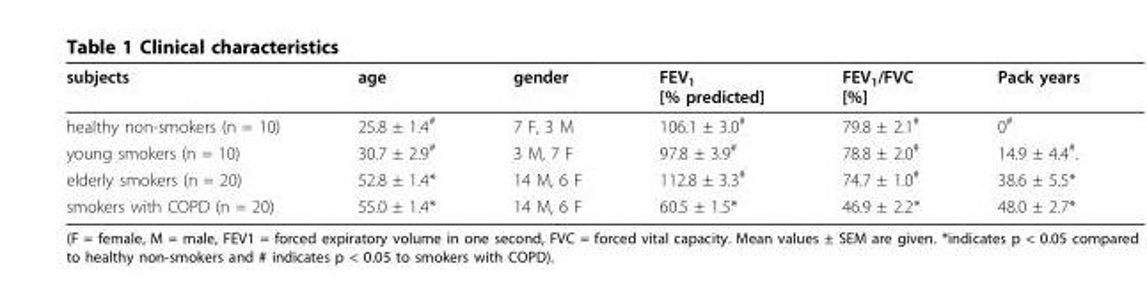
<table><thead><tr><td>subjects</td><td>age</td><td>gender</td><td>FEV<sub>1</sub> [% predicted]</td><td>FEV<sub>1</sub>/FVC [%]</td><td>Pack years</td></tr></thead><tbody><tr><td>healthy non-smokers (n = 10)</td><td>25.8 ± 1.4<sup>#</sup></td><td>7 F, 3 M</td><td>106.1 ± 3.0<sup>#</sup></td><td>79.8 ± 2.1<sup>#</sup></td><td>0<sup>#</sup></td></tr><tr><td>young smokers (n = 10)</td><td>30.7 ± 2.9<sup>#</sup></td><td>3 M, 7 F</td><td>97.8 ± 3.9<sup>#</sup></td><td>78.8 ± 2.0<sup>#</sup></td><td>14.9 ± 4.4<sup>#</sup>.</td></tr><tr><td>elderly smokers (n = 20)</td><td>52.8 ± 1.4*</td><td>14 M, 6 F</td><td>112.8 ± 3.3<sup>#</sup></td><td>74.7 ± 1.0<sup>#</sup></td><td>38.6 ± 5.5*</td></tr><tr><td>smokers with COPD (n = 20)</td><td>55.0 ± 1.4*</td><td>14 M, 6 F</td><td>60.5 ± 1.5*</td><td>46.9 ± 2.2*</td><td>48.0 ± 2.7*</td></tr></tbody></table>